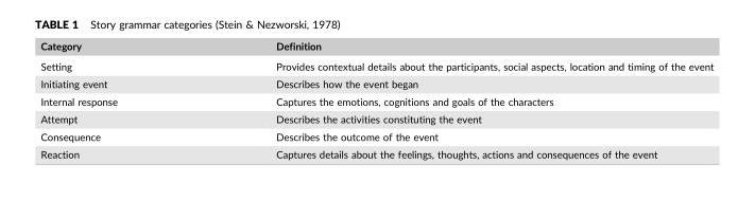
<table><thead><tr><td>Category</td><td>Definition</td></tr></thead><tbody><tr><td>Setting</td><td>Provides contextual details about the participants, social aspects, location and timing of the event</td></tr><tr><td>Initiating event</td><td>Describes how the event began</td></tr><tr><td>Internal response</td><td>Captures the emotions, cognitions and goals of the characters</td></tr><tr><td>Attempt</td><td>Describes the activities constituting the event</td></tr><tr><td>Consequence</td><td>Describes the outcome of the event</td></tr><tr><td>Reaction</td><td>Captures details about the feelings, thoughts, actions and consequences of the event</td></tr></tbody></table>